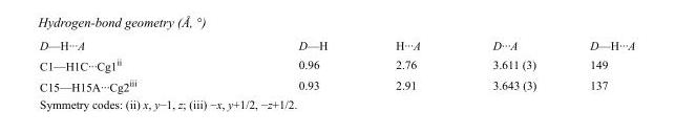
<table><tbody><tr><td>D—H···A</td><td>D—H</td><td>H···A</td><td>D···A</td><td>D—H···A</td></tr><tr><td>C1—H1C···Cg1<sup>ii</sup></td><td>0.96</td><td>2.76</td><td>3.611 (3)</td><td>149</td></tr><tr><td>C15—H15A···Cg2<sup>iii</sup></td><td>0.93</td><td>2.91</td><td>3.643 (3)</td><td>137</td></tr></tbody></table>